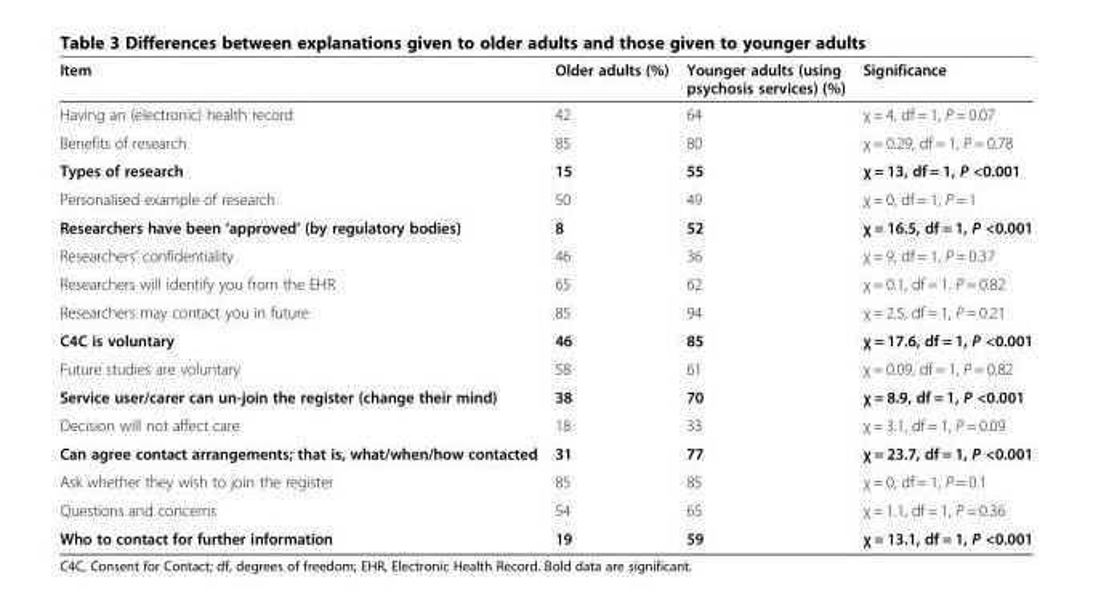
<table><thead><tr><td>Item</td><td>Older adults (%)</td><td>Younger adults (using psychosis services) (%)</td><td>Significance</td></tr></thead><tbody><tr><td>Having an (electronic) health record</td><td>42</td><td>64</td><td>χ = 4, df = 1, P = 0.07</td></tr><tr><td>Benefits of research</td><td>85</td><td>80</td><td>χ = 0.29, df = 1, P = 0.78</td></tr><tr><td>Types of research</td><td>15</td><td>55</td><td>χ = 13, df = 1, P &lt;0.001</td></tr><tr><td>Personalised example of research</td><td>50</td><td>49</td><td>χ = 0, df = 1, P = 1</td></tr><tr><td>Researchers have been ‘approved’ (by regulatory bodies)</td><td>8</td><td>52</td><td>χ = 16.5, df = 1, P &lt;0.001</td></tr><tr><td>Researchers’ confidentiality</td><td>46</td><td>36</td><td>χ = 9, df = 1, P = 0.37</td></tr><tr><td>Researchers will identify you from the EHR</td><td>65</td><td>62</td><td>χ = 0.1, df = 1. P = 0.82</td></tr><tr><td>Researchers may contact you in future</td><td>85</td><td>94</td><td>χ = 2.5, df = 1, P = 0.21</td></tr><tr><td>C4C is voluntary</td><td>46</td><td>85</td><td>χ = 17.6, df = 1, P &lt;0.001</td></tr><tr><td>Future studies are voluntary</td><td>58</td><td>61</td><td>χ = 0.09, df = 1, P = 0.82</td></tr><tr><td>Service user/carer can un-join the register (change their mind)</td><td>38</td><td>70</td><td>χ = 8.9, df = 1, P &lt;0.001</td></tr><tr><td>Decision will not affect care</td><td>18</td><td>33</td><td>χ = 3.1, df = 1, P = 0.09</td></tr><tr><td>Can agree contact arrangements; that is, what/when/how contacted</td><td>31</td><td>77</td><td>χ = 23.7, df = 1, P &lt;0.001</td></tr><tr><td>Ask whether they wish to join the register</td><td>85</td><td>85</td><td>χ = 0, df = 1, P = 0.1</td></tr><tr><td>Questions and concerns</td><td>54</td><td>65</td><td>χ = 1.1, df = 1, P = 0.36</td></tr><tr><td>Who to contact for further information</td><td>19</td><td>59</td><td>χ = 13.1, df = 1, P &lt;0.001</td></tr></tbody></table>